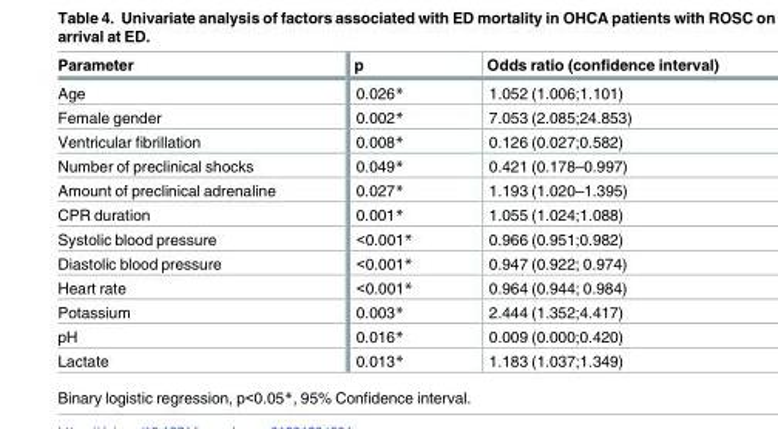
<table><thead><tr><td>Parameter</td><td>p</td><td>Odds ratio (confidence interval)</td></tr></thead><tbody><tr><td>Age</td><td>0.026*</td><td>1.052 (1.006;1.101)</td></tr><tr><td>Female gender</td><td>0.002*</td><td>7.053 (2.085;24.853)</td></tr><tr><td>Ventricular fibrillation</td><td>0.008*</td><td>0.126 (0.027;0.582)</td></tr><tr><td>Number of preclinical shocks</td><td>0.049*</td><td>0.421 (0.178–0.997)</td></tr><tr><td>Amount of preclinical adrenaline</td><td>0.027*</td><td>1.193 (1.020–1.395)</td></tr><tr><td>CPR duration</td><td>0.001*</td><td>1.055 (1.024;1.088)</td></tr><tr><td>Systolic blood pressure</td><td>&lt;0.001*</td><td>0.966 (0.951;0.982)</td></tr><tr><td>Diastolic blood pressure</td><td>&lt;0.001*</td><td>0.947 (0.922; 0.974)</td></tr><tr><td>Heart rate</td><td>&lt;0.001*</td><td>0.964 (0.944; 0.984)</td></tr><tr><td>Potassium</td><td>0.003*</td><td>2.444 (1.352;4.417)</td></tr><tr><td>pH</td><td>0.016*</td><td>0.009 (0.000;0.420)</td></tr><tr><td>Lactate</td><td>0.013*</td><td>1.183 (1.037;1.349)</td></tr></tbody></table>